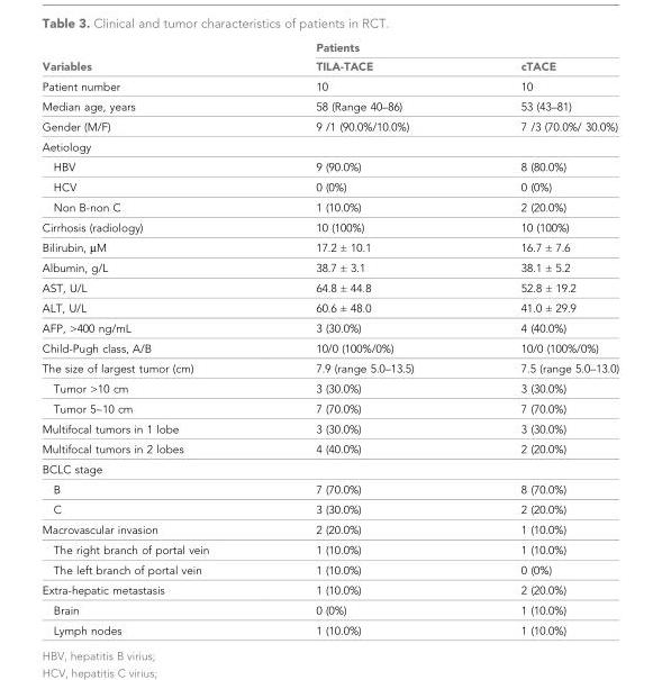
<table><thead><tr><td rowspan="2">Variables</td><td colspan="2">Patients</td></tr><tr><td>TILA-TACE</td><td>cTACE</td></tr></thead><tbody><tr><td>Patient number</td><td>10</td><td>10</td></tr><tr><td>Median age, years</td><td>58 (Range 40–86)</td><td>53 (43–81)</td></tr><tr><td>Gender (M/F)</td><td>9 /1 (90.0%/10.0%)</td><td>7 /3 (70.0%/ 30.0%)</td></tr><tr><td colspan="3">Aetiology</td></tr><tr><td>HBV</td><td>9 (90.0%)</td><td>8 (80.0%)</td></tr><tr><td>HCV</td><td>0 (0%)</td><td>0 (0%)</td></tr><tr><td>Non B-non C</td><td>1 (10.0%)</td><td>2 (20.0%)</td></tr><tr><td>Cirrhosis (radiology)</td><td>10 (100%)</td><td>10 (100%)</td></tr><tr><td>Bilirubin, μM</td><td>17.2 ± 10.1</td><td>16.7 ± 7.6</td></tr><tr><td>Albumin, g/L</td><td>38.7 ± 3.1</td><td>38.1 ± 5.2</td></tr><tr><td>AST, U/L</td><td>64.8 ± 44.8</td><td>52.8 ± 19.2</td></tr><tr><td>ALT, U/L</td><td>60.6 ± 48.0</td><td>41.0 ± 29.9</td></tr><tr><td>AFP, &gt;400 ng/mL</td><td>3 (30.0%)</td><td>4 (40.0%)</td></tr><tr><td>Child-Pugh class, A/B</td><td>10/0 (100%/0%)</td><td>10/0 (100%/0%)</td></tr><tr><td>The size of largest tumor (cm)</td><td>7.9 (range 5.0–13.5)</td><td>7.5 (range 5.0–13.0)</td></tr><tr><td>Tumor &gt;10 cm</td><td>3 (30.0%)</td><td>3 (30.0%)</td></tr><tr><td>Tumor 5~10 cm</td><td>7 (70.0%)</td><td>7 (70.0%)</td></tr><tr><td>Multifocal tumors in 1 lobe</td><td>3 (30.0%)</td><td>3 (30.0%)</td></tr><tr><td>Multifocal tumors in 2 lobes</td><td>4 (40.0%)</td><td>2 (20.0%)</td></tr><tr><td colspan="3">BCLC stage</td></tr><tr><td>B</td><td>7 (70.0%)</td><td>8 (70.0%)</td></tr><tr><td>C</td><td>3 (30.0%)</td><td>2 (20.0%)</td></tr><tr><td>Macrovascular invasion</td><td>2 (20.0%)</td><td>1 (10.0%)</td></tr><tr><td>The right branch of portal vein</td><td>1 (10.0%)</td><td>1 (10.0%)</td></tr><tr><td>The left branch of portal vein</td><td>1 (10.0%)</td><td>0 (0%)</td></tr><tr><td>Extra-hepatic metastasis</td><td>1 (10.0%)</td><td>2 (20.0%)</td></tr><tr><td>Brain</td><td>0 (0%)</td><td>1 (10.0%)</td></tr><tr><td>Lymph nodes</td><td>1 (10.0%)</td><td>1 (10.0%)</td></tr></tbody></table>